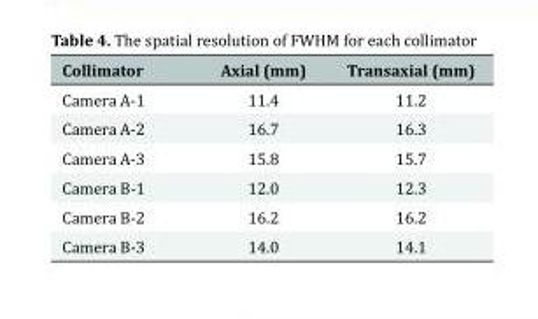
<table><thead><tr><td>Collimator</td><td>Axial (mm)</td><td>Transaxial (mm)</td></tr></thead><tbody><tr><td>Camera A-1</td><td>11.4</td><td>11.2</td></tr><tr><td>Camera A-2</td><td>16.7</td><td>16.3</td></tr><tr><td>Camera A-3</td><td>15.8</td><td>15.7</td></tr><tr><td>Camera B-1</td><td>12.0</td><td>12.3</td></tr><tr><td>Camera B-2</td><td>16.2</td><td>16.2</td></tr><tr><td>Camera B-3</td><td>14.0</td><td>14.1</td></tr></tbody></table>